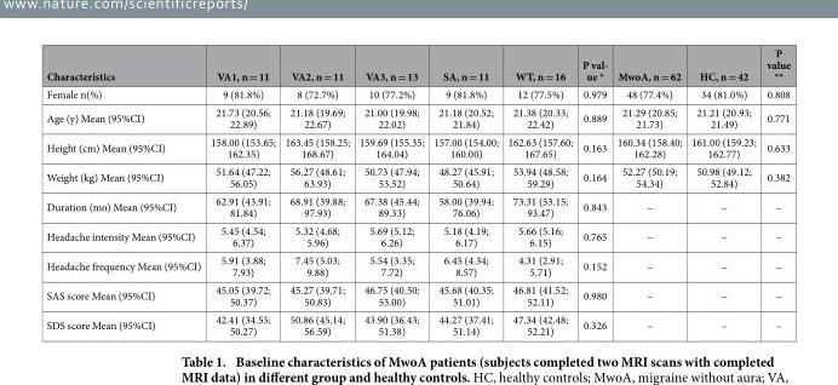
<table><thead><tr><td>Characteristics</td><td>VA1, n = 11</td><td>VA2, n = 11</td><td>VA3, n = 13</td><td>SA, n = 11</td><td>WT, n = 16</td><td>P val- ue *</td><td>MwoA, n = 62</td><td>HC, n = 42</td><td>P value **</td></tr></thead><tbody><tr><td>Female n(%)</td><td>9 (81.8%)</td><td>8 (72.7%)</td><td>10 (77.2%)</td><td>9 (81.8%)</td><td>12 (77.5%)</td><td>0.979</td><td>48 (77.4%)</td><td>34 (81.0%)</td><td>0.808</td></tr><tr><td>Age (y) Mean (95%CI)</td><td>21.73 (20.56; 22.89)</td><td>21.18 (19.69; 22.67)</td><td>21.00 (19.98; 22.02)</td><td>21.18 (20.52; 21.84)</td><td>21.38 (20.33; 22.42)</td><td>0.889</td><td>21.29 (20.85; 21.73)</td><td>21.21 (20.93; 21.49)</td><td>0.771</td></tr><tr><td>Height (cm) Mean (95%CI)</td><td>158.00 (153.65; 162.35)</td><td>163.45 (158.25; 168.67)</td><td>159.69 (155.35; 164.04)</td><td>157.00 (154.00; 160.00)</td><td>162.63 (157.60; 167.65)</td><td>0.163</td><td>160.34 (158.40; 162.28)</td><td>161.00 (159.23; 162.77)</td><td>0.633</td></tr><tr><td>Weight (kg) Mean (95%CI)</td><td>51.64 (47.22; 56.05)</td><td>56.27 (48.61; 63.93)</td><td>50.73 (47.94; 53.52)</td><td>48.27 (45.91; 50.64)</td><td>53.94 (48.58; 59.29)</td><td>0.164</td><td>52.27 (50.19; 54.34)</td><td>50.98 (49.12; 52.84)</td><td>0.382</td></tr><tr><td>Duration (mo) Mean (95%CI)</td><td>62.91 (43.91; 81.84)</td><td>68.91 (39.88; 97.93)</td><td>67.38 (45.44; 89.33)</td><td>58.00 (39.94; 76.06)</td><td>73.31 (53.15; 93.47)</td><td>0.843</td><td>–</td><td>–</td><td>–</td></tr><tr><td>Headache intensity Mean (95%CI)</td><td>5.45 (4.54; 6.37)</td><td>5.32 (4.68; 5.96)</td><td>5.69 (5.12; 6.26)</td><td>5.18 (4.19; 6.17)</td><td>5.66 (5.16; 6.15)</td><td>0.765</td><td>–</td><td>–</td><td>–</td></tr><tr><td>Headache frequency Mean (95%CI)</td><td>5.91 (3.88; 7.93)</td><td>7.45 (5.03; 9.88)</td><td>5.54 (3.35; 7.72)</td><td>6.45 (4.34; 8.57)</td><td>4.31 (2.91; 5.71)</td><td>0.152</td><td>–</td><td>–</td><td>–</td></tr><tr><td>SAS score Mean (95%CI)</td><td>45.05 (39.72; 50.37)</td><td>45.27 (39.71; 50.83)</td><td>46.75 (40.50; 53.00)</td><td>45.68 (40.35; 51.01)</td><td>46.81 (41.52; 52.11)</td><td>0.980</td><td>–</td><td>–</td><td>–</td></tr><tr><td>SDS score Mean (95%CI)</td><td>42.41 (34.55; 50.27)</td><td>50.86 (45.14; 56.59)</td><td>43.90 (36.43; 51.38)</td><td>44.27 (37.41; 51.14)</td><td>47.34 (42.48; 52.21)</td><td>0.326</td><td>–</td><td>–</td><td>–</td></tr></tbody></table>